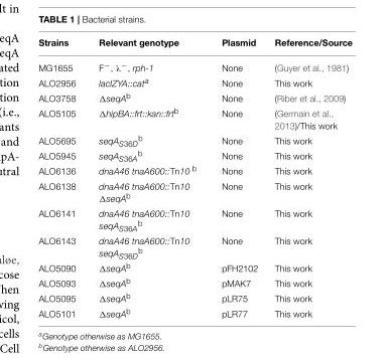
<table><thead><tr><td>Strains</td><td>Relevant genotype</td><td>Plasmid</td><td>Reference/Source</td></tr></thead><tbody><tr><td>MG1655</td><td>F<sup>−</sup>, λ<sup>−</sup>, rph-1</td><td>None</td><td>(Guyer et al., 1981)</td></tr><tr><td>ALO2956</td><td>lacIZYA::cata</td><td>None</td><td>This work</td></tr><tr><td>ALO3758</td><td>ΔseqA<sup>b</sup></td><td>None</td><td>(Riber et al., 2009)</td></tr><tr><td>ALO5105</td><td>ΔhipBA::frt::kan::frt<sup>b</sup></td><td>None</td><td>(Germain et al., 2013)/This work</td></tr><tr><td>ALO5695</td><td>seqAS36Db</td><td>None</td><td>This work</td></tr><tr><td>ALO5945</td><td>seqAS36Ab</td><td>None</td><td>This work</td></tr><tr><td>ALO6136</td><td>dnaA46 tnaA600::Tn10 <sup>b</sup></td><td>None</td><td>This work</td></tr><tr><td>ALO6138</td><td>dnaA46 tnaA600::Tn10 ΔseqA<sup>b</sup></td><td>None</td><td>This work</td></tr><tr><td>ALO6141</td><td>dnaA46 tnaA600::Tn10 seqAS36Ab</td><td>None</td><td>This work</td></tr><tr><td>ALO6143</td><td>dnaA46 tnaA600::Tn10 seqAS36Db</td><td>None</td><td>This work</td></tr><tr><td>ALO5090</td><td>ΔseqA<sup>b</sup></td><td>pFH2102</td><td>This work</td></tr><tr><td>ALO5093</td><td>ΔseqA<sup>b</sup></td><td>pMAK7</td><td>This work</td></tr><tr><td>ALO5095</td><td>ΔseqA<sup>b</sup></td><td>pLR75</td><td>This work</td></tr><tr><td>ALO5101</td><td>ΔseqA<sup>b</sup></td><td>pLR77</td><td>This work</td></tr></tbody></table>